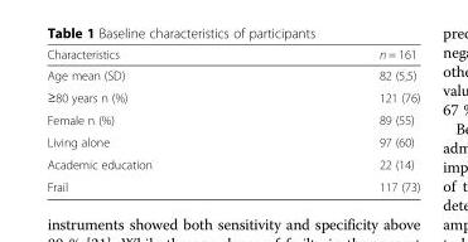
<table><thead><tr><td>Characteristics</td><td>n = 161</td></tr></thead><tbody><tr><td>Age mean (SD)</td><td>82 (5,5)</td></tr><tr><td>≥80 years n (%)</td><td>121 (76)</td></tr><tr><td>Female n (%)</td><td>89 (55)</td></tr><tr><td>Living alone</td><td>97 (60)</td></tr><tr><td>Academic education</td><td>22 (14)</td></tr><tr><td>Frail</td><td>117 (73)</td></tr></tbody></table>